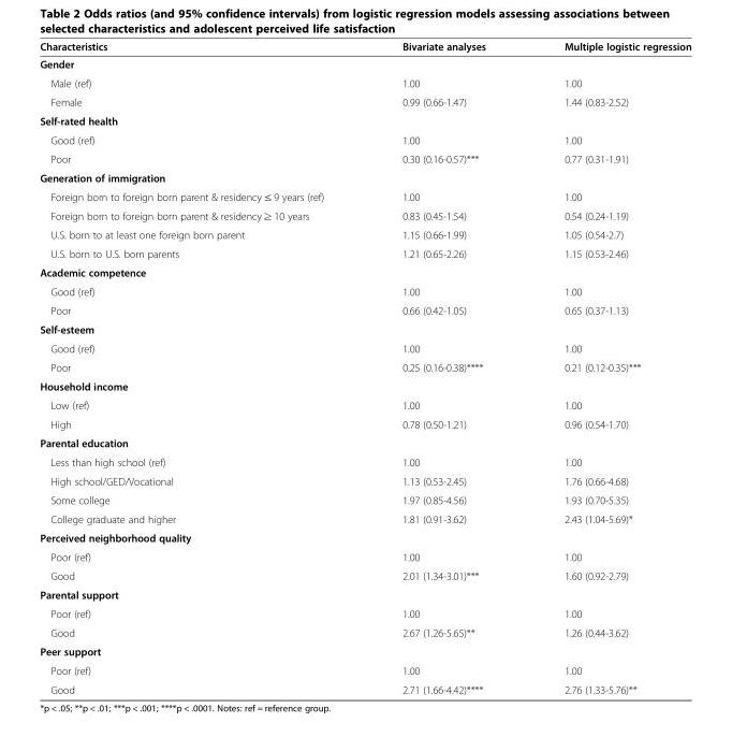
<table><thead><tr><td>Characteristics</td><td>Bivariate analyses</td><td>Multiple logistic regression</td></tr></thead><tbody><tr><td colspan="3">Gender</td></tr><tr><td>Male (ref)</td><td>1.00</td><td>1.00</td></tr><tr><td>Female</td><td>0.99 (0.66-1.47)</td><td>1.44 (0.83-2.52)</td></tr><tr><td colspan="3">Self-rated health</td></tr><tr><td>Good (ref)</td><td>1.00</td><td>1.00</td></tr><tr><td>Poor</td><td>0.30 (0.16-0.57)***</td><td>0.77 (0.31-1.91)</td></tr><tr><td colspan="3">Generation of immigration</td></tr><tr><td>Foreign born to foreign born parent &amp; residency ≤ 9 years (ref)</td><td>1.00</td><td>1.00</td></tr><tr><td>Foreign born to foreign born parent &amp; residency ≥ 10 years</td><td>0.83 (0.45-1.54)</td><td>0.54 (0.24-1.19)</td></tr><tr><td>U.S. born to at least one foreign born parent</td><td>1.15 (0.66-1.99)</td><td>1.05 (0.54-2.7)</td></tr><tr><td>U.S. born to U.S. born parents</td><td>1.21 (0.65-2.26)</td><td>1.15 (0.53-2.46)</td></tr><tr><td colspan="3">Academic competence</td></tr><tr><td>Good (ref)</td><td>1.00</td><td>1.00</td></tr><tr><td>Poor</td><td>0.66 (0.42-1.05)</td><td>0.65 (0.37-1.13)</td></tr><tr><td colspan="3">Self-esteem</td></tr><tr><td>Good (ref)</td><td>1.00</td><td>1.00</td></tr><tr><td>Poor</td><td>0.25 (0.16-0.38)****</td><td>0.21 (0.12-0.35)***</td></tr><tr><td colspan="3">Household income</td></tr><tr><td>Low (ref)</td><td>1.00</td><td>1.00</td></tr><tr><td>High</td><td>0.78 (0.50-1.21)</td><td>0.96 (0.54-1.70)</td></tr><tr><td colspan="3">Parental education</td></tr><tr><td>Less than high school (ref)</td><td>1.00</td><td>1.00</td></tr><tr><td>High school/GED/Vocational</td><td>1.13 (0.53-2.45)</td><td>1.76 (0.66-4.68)</td></tr><tr><td>Some college</td><td>1.97 (0.85-4.56)</td><td>1.93 (0.70-5.35)</td></tr><tr><td>College graduate and higher</td><td>1.81 (0.91-3.62)</td><td>2.43 (1.04-5.69)*</td></tr><tr><td colspan="3">Perceived neighborhood quality</td></tr><tr><td>Poor (ref)</td><td>1.00</td><td>1.00</td></tr><tr><td>Good</td><td>2.01 (1.34-3.01)***</td><td>1.60 (0.92-2.79)</td></tr><tr><td colspan="3">Parental support</td></tr><tr><td>Poor (ref)</td><td>1.00</td><td>1.00</td></tr><tr><td>Good</td><td>2.67 (1.26-5.65)**</td><td>1.26 (0.44-3.62)</td></tr><tr><td colspan="3">Peer support</td></tr><tr><td>Poor (ref)</td><td>1.00</td><td>1.00</td></tr><tr><td>Good</td><td>2.71 (1.66-4.42)****</td><td>2.76 (1.33-5.76)**</td></tr></tbody></table>